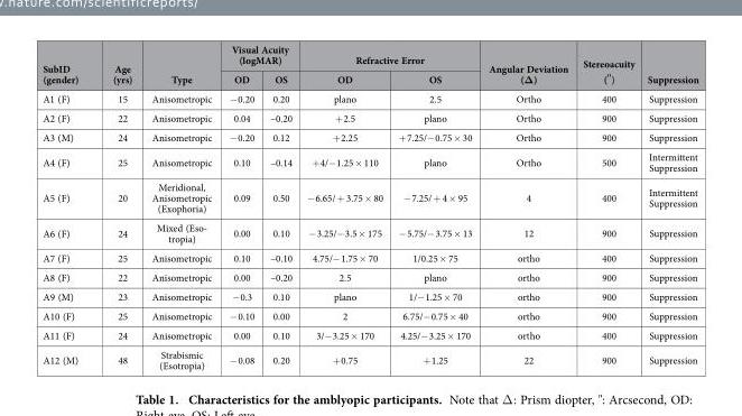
<table><thead><tr><td rowspan="2">SubID (gender)</td><td rowspan="2">Age (yrs)</td><td rowspan="2">Type</td><td colspan="2">Visual Acuity (logMAR)</td><td colspan="2">Refractive Error</td><td rowspan="2">Angular Deviation (Δ)</td><td rowspan="2">Stereoacuity (&quot;)</td><td rowspan="2">Suppression</td></tr><tr><td>OD</td><td>OS</td><td>OD</td><td>OS</td></tr></thead><tbody><tr><td>A1 (F)</td><td>15</td><td>Anisometropic</td><td>− 0.20</td><td>0.20</td><td>plano</td><td>2.5</td><td>Ortho</td><td>400</td><td>Suppression</td></tr><tr><td>A2 (F)</td><td>22</td><td>Anisometropic</td><td>0.04</td><td>–0.20</td><td>+ 2.5</td><td>plano</td><td>Ortho</td><td>900</td><td>Suppression</td></tr><tr><td>A3 (M)</td><td>24</td><td>Anisometropic</td><td>− 0.20</td><td>0.12</td><td>+ 2.25</td><td>+ 7.25/− 0.75 × 30</td><td>Ortho</td><td>900</td><td>Suppression</td></tr><tr><td>A4 (F)</td><td>25</td><td>Anisometropic</td><td>0.10</td><td>–0.14</td><td>+ 4/− 1.25 × 110</td><td>plano</td><td>Ortho</td><td>500</td><td>Intermittent Suppression</td></tr><tr><td>A5 (F)</td><td>20</td><td>Meridional, Anisometropic (Exophoria)</td><td>0.09</td><td>0.50</td><td>− 6.65/ + 3.75 × 80</td><td>− 7.25/ + 4 × 95</td><td>4</td><td>400</td><td>Intermittent Suppression</td></tr><tr><td>A6 (F)</td><td>24</td><td>Mixed (Eso- tropia)</td><td>0.00</td><td>0.10</td><td>− 3.25/− 3.5 × 175</td><td>− 5.75/− 3.75 × 13</td><td>12</td><td>900</td><td>Suppression</td></tr><tr><td>A7 (F)</td><td>25</td><td>Anisometropic</td><td>0.10</td><td>–0.10</td><td>4.75/− 1.75 × 70</td><td>1/0.25 × 75</td><td>ortho</td><td>400</td><td>Suppression</td></tr><tr><td>A8 (F)</td><td>22</td><td>Anisometropic</td><td>0.00</td><td>–0.20</td><td>2.5</td><td>plano</td><td>ortho</td><td>900</td><td>Suppression</td></tr><tr><td>A9 (M)</td><td>23</td><td>Anisometropic</td><td>− 0.3</td><td>0.10</td><td>plano</td><td>1/− 1.25 × 70</td><td>ortho</td><td>900</td><td>Suppression</td></tr><tr><td>A10 (F)</td><td>25</td><td>Anisometropic</td><td>− 0.10</td><td>0.00</td><td>2</td><td>6.75/− 0.75 × 40</td><td>ortho</td><td>900</td><td>Suppression</td></tr><tr><td>A11 (F)</td><td>24</td><td>Anisometropic</td><td>0.00</td><td>0.10</td><td>3/− 3.25 × 170</td><td>4.25/− 3.25 × 170</td><td>ortho</td><td>400</td><td>Suppression</td></tr><tr><td>A12 (M)</td><td>48</td><td>Strabismic (Esotropia)</td><td>− 0.08</td><td>0.20</td><td>+ 0.75</td><td>+ 1.25</td><td>22</td><td>900</td><td>Suppression</td></tr></tbody></table>